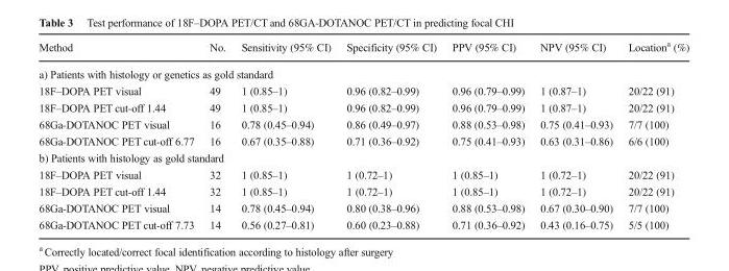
<table><thead><tr><td>Method</td><td>No.</td><td>Sensitivity (95% CI)</td><td>Specificity (95% CI)</td><td>PPV (95% CI)</td><td>NPV (95% CI)</td><td>Location<sup>a</sup> (%)</td></tr></thead><tbody><tr><td colspan="7">a) Patients with histology or genetics as gold standard</td></tr><tr><td>18F–DOPA PET visual</td><td>49</td><td>1 (0.85–1)</td><td>0.96 (0.82–0.99)</td><td>0.96 (0.79–0.99)</td><td>1 (0.87–1)</td><td>20/22 (91)</td></tr><tr><td>18F–DOPA PET cut-off 1.44</td><td>49</td><td>1 (0.85–1)</td><td>0.96 (0.82–0.99)</td><td>0.96 (0.79–0.99)</td><td>1 (0.87–1)</td><td>20/22 (91)</td></tr><tr><td>68Ga-DOTANOC PET visual</td><td>16</td><td>0.78 (0.45–0.94)</td><td>0.86 (0.49–0.97)</td><td>0.88 (0.53–0.98)</td><td>0.75 (0.41–0.93)</td><td>7/7 (100)</td></tr><tr><td>68Ga-DOTANOC PET cut-off 6.77</td><td>16</td><td>0.67 (0.35–0.88)</td><td>0.71 (0.36–0.92)</td><td>0.75 (0.41–0.93)</td><td>0.63 (0.31–0.86)</td><td>6/6 (100)</td></tr><tr><td colspan="7">b) Patients with histology as gold standard</td></tr><tr><td>18F–DOPA PET visual</td><td>32</td><td>1 (0.85–1)</td><td>1 (0.72–1)</td><td>1 (0.85–1)</td><td>1 (0.72–1)</td><td>20/22 (91)</td></tr><tr><td>18F–DOPA PET cut-off 1.44</td><td>32</td><td>1 (0.85–1)</td><td>1 (0.72–1)</td><td>1 (0.85–1)</td><td>1 (0.72–1)</td><td>20/22 (91)</td></tr><tr><td>68Ga-DOTANOC PET visual</td><td>14</td><td>0.78 (0.45–0.94)</td><td>0.80 (0.38–0.96)</td><td>0.88 (0.53–0.98)</td><td>0.67 (0.30–0.90)</td><td>7/7 (100)</td></tr><tr><td>68Ga-DOTANOC PET cut-off 7.73</td><td>14</td><td>0.56 (0.27–0.81)</td><td>0.60 (0.23–0.88)</td><td>0.71 (0.36–0.92)</td><td>0.43 (0.16–0.75)</td><td>5/5 (100)</td></tr></tbody></table>